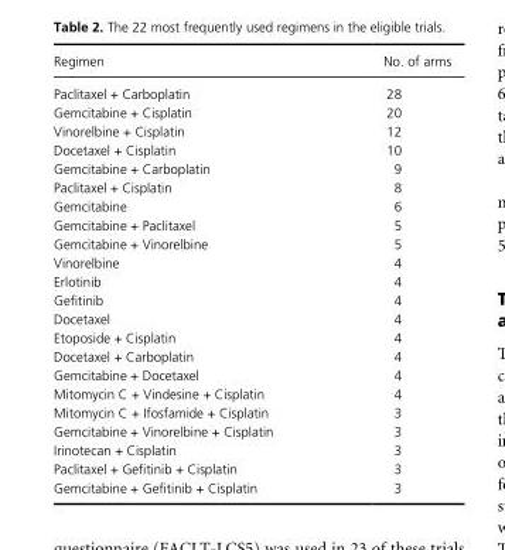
<table><thead><tr><td>Regimen</td><td>No. of arms</td></tr></thead><tbody><tr><td>Paclitaxel + Carboplatin</td><td>28</td></tr><tr><td>Gemcitabine + Cisplatin</td><td>20</td></tr><tr><td>Vinorelbine + Cisplatin</td><td>12</td></tr><tr><td>Docetaxel + Cisplatin</td><td>10</td></tr><tr><td>Gemcitabine + Carboplatin</td><td>9</td></tr><tr><td>Paclitaxel + Cisplatin</td><td>8</td></tr><tr><td>Gemcitabine</td><td>6</td></tr><tr><td>Gemcitabine + Paclitaxel</td><td>5</td></tr><tr><td>Gemcitabine + Vinorelbine</td><td>5</td></tr><tr><td>Vinorelbine</td><td>4</td></tr><tr><td>Erlotinib</td><td>4</td></tr><tr><td>Gefitinib</td><td>4</td></tr><tr><td>Docetaxel</td><td>4</td></tr><tr><td>Etoposide + Cisplatin</td><td>4</td></tr><tr><td>Docetaxel + Carboplatin</td><td>4</td></tr><tr><td>Gemcitabine + Docetaxel</td><td>4</td></tr><tr><td>Mitomycin C + Vindesine + Cisplatin</td><td>4</td></tr><tr><td>Mitomycin C + Ifosfamide + Cisplatin</td><td>3</td></tr><tr><td>Gemcitabine + Vinorelbine + Cisplatin</td><td>3</td></tr><tr><td>Irinotecan + Cisplatin</td><td>3</td></tr><tr><td>Paclitaxel + Gefitinib + Cisplatin</td><td>3</td></tr><tr><td>Gemcitabine + Gefitinib + Cisplatin</td><td>3</td></tr></tbody></table>